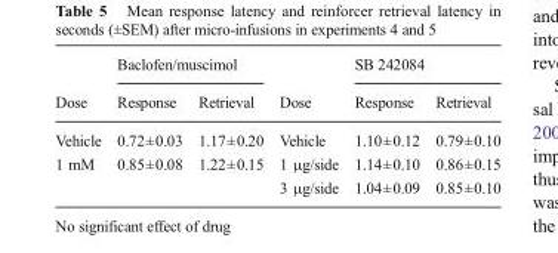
<table><thead><tr><td rowspan="2">Dose</td><td colspan="2">Baclofen/muscimol</td><td rowspan="2">Dose</td><td colspan="2">SB 242084</td></tr><tr><td>Response</td><td>Retrieval</td><td>Response</td><td>Retrieval</td></tr></thead><tbody><tr><td>Vehicle</td><td>0.72±0.03</td><td>1.17±0.20</td><td>Vehicle</td><td>1.10±0.12</td><td>0.79±0.10</td></tr><tr><td rowspan="2">1 mM</td><td>0.85±0.08</td><td>1.22±0.15</td><td>1 μg/side</td><td>1.14±0.10</td><td>0.86±0.15</td></tr><tr><td></td><td></td><td>3 μg/side</td><td>1.04±0.09</td><td>0.85±0.10</td></tr></tbody></table>